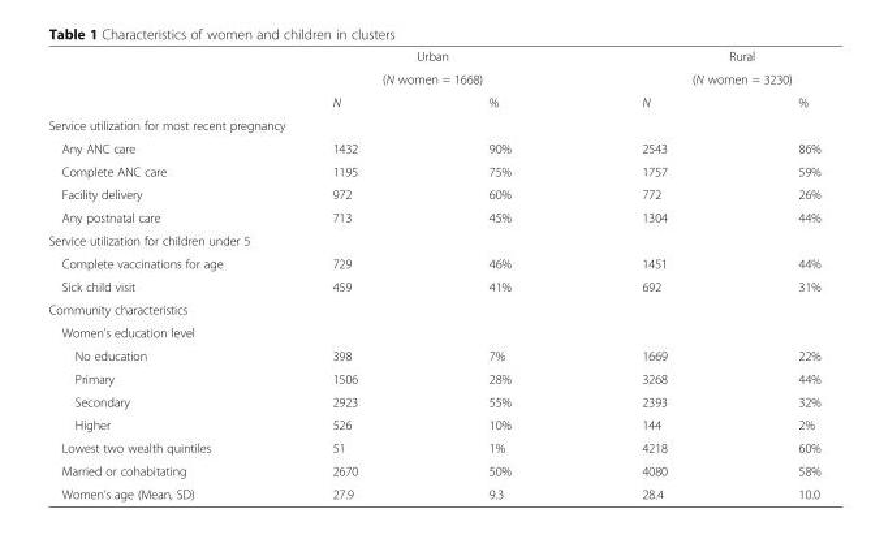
<table><thead><tr><td rowspan="3"></td><td rowspan="2" colspan="2">Urban (N women = 1668)</td><td rowspan="2" colspan="2">Rural (N women = 3230)</td></tr><tr></tr><tr><td>N</td><td>%</td><td>N</td><td>%</td></tr></thead><tbody><tr><td colspan="5">Service utilization for most recent pregnancy</td></tr><tr><td>Any ANC care</td><td>1432</td><td>90%</td><td>2543</td><td>86%</td></tr><tr><td>Complete ANC care</td><td>1195</td><td>75%</td><td>1757</td><td>59%</td></tr><tr><td>Facility delivery</td><td>972</td><td>60%</td><td>772</td><td>26%</td></tr><tr><td>Any postnatal care</td><td>713</td><td>45%</td><td>1304</td><td>44%</td></tr><tr><td colspan="5">Service utilization for children under 5</td></tr><tr><td>Complete vaccinations for age</td><td>729</td><td>46%</td><td>1451</td><td>44%</td></tr><tr><td>Sick child visit</td><td>459</td><td>41%</td><td>692</td><td>31%</td></tr><tr><td colspan="5">Community characteristics</td></tr><tr><td colspan="5">Women’s education level</td></tr><tr><td>No education</td><td>398</td><td>7%</td><td>1669</td><td>22%</td></tr><tr><td>Primary</td><td>1506</td><td>28%</td><td>3268</td><td>44%</td></tr><tr><td>Secondary</td><td>2923</td><td>55%</td><td>2393</td><td>32%</td></tr><tr><td>Higher</td><td>526</td><td>10%</td><td>144</td><td>2%</td></tr><tr><td>Lowest two wealth quintiles</td><td>51</td><td>1%</td><td>4218</td><td>60%</td></tr><tr><td>Married or cohabitating</td><td>2670</td><td>50%</td><td>4080</td><td>58%</td></tr><tr><td>Women’s age (Mean, SD)</td><td>27.9</td><td>9.3</td><td>28.4</td><td>10.0</td></tr></tbody></table>